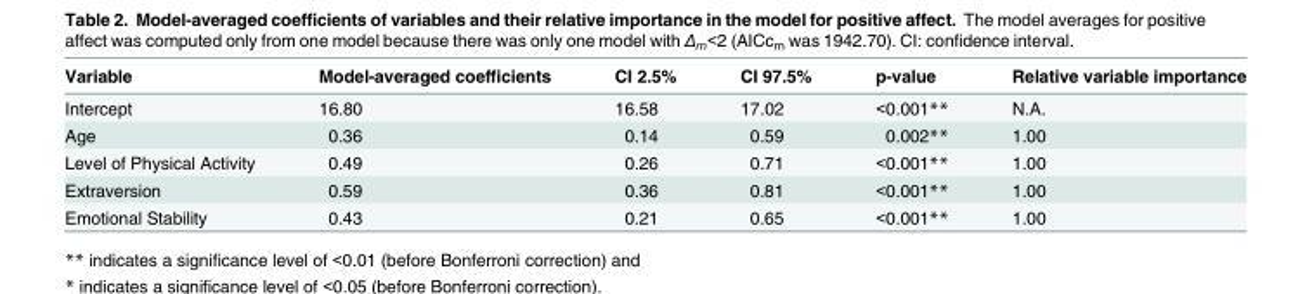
<table><thead><tr><td>Variable</td><td>Model-averaged coefficients</td><td>CI 2.5%</td><td>CI 97.5%</td><td>p-value</td><td>Relative variable importance</td></tr></thead><tbody><tr><td>Intercept</td><td>16.80</td><td>16.58</td><td>17.02</td><td>&lt;0.001**</td><td>N.A.</td></tr><tr><td>Age</td><td>0.36</td><td>0.14</td><td>0.59</td><td>0.002**</td><td>1.00</td></tr><tr><td>Level of Physical Activity</td><td>0.49</td><td>0.26</td><td>0.71</td><td>&lt;0.001**</td><td>1.00</td></tr><tr><td>Extraversion</td><td>0.59</td><td>0.36</td><td>0.81</td><td>&lt;0.001**</td><td>1.00</td></tr><tr><td>Emotional Stability</td><td>0.43</td><td>0.21</td><td>0.65</td><td>&lt;0.001**</td><td>1.00</td></tr></tbody></table>